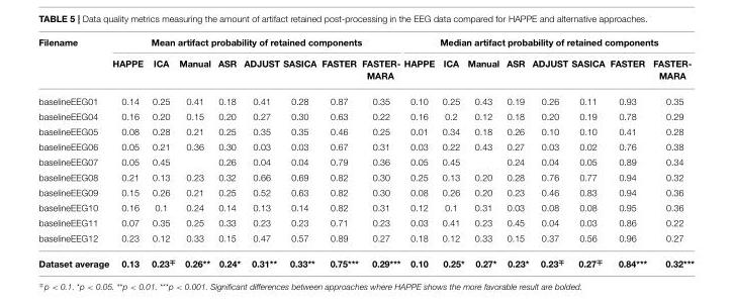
<table><thead><tr><td rowspan="2">Filename</td><td colspan="8">Mean artifact probability of retained components</td><td colspan="8">Median artifact probability of retained components</td></tr><tr><td>HAPPE</td><td>ICA</td><td>Manual</td><td>ASR</td><td>ADJUST</td><td>SASICA</td><td>FASTER</td><td>FASTER- MARA</td><td>HAPPE</td><td>ICA</td><td>Manual</td><td>ASR</td><td>ADJUST</td><td>SASICA</td><td>FASTER</td><td>FASTER- MARA</td></tr></thead><tbody><tr><td>baselineEEG01</td><td>0.14</td><td>0.25</td><td>0.41</td><td>0.18</td><td>0.41</td><td>0.28</td><td>0.87</td><td>0.35</td><td>0.10</td><td>0.25</td><td>0.43</td><td>0.19</td><td>0.26</td><td>0.11</td><td>0.93</td><td>0.35</td></tr><tr><td>baselineEEG04</td><td>0.16</td><td>0.20</td><td>0.15</td><td>0.20</td><td>0.27</td><td>0.30</td><td>0.63</td><td>0.22</td><td>0.16</td><td>0.2</td><td>0.12</td><td>0.18</td><td>0.20</td><td>0.19</td><td>0.78</td><td>0.29</td></tr><tr><td>baselineEEG05</td><td>0.08</td><td>0.28</td><td>0.21</td><td>0.25</td><td>0.35</td><td>0.35</td><td>0.46</td><td>0.25</td><td>0.01</td><td>0.34</td><td>0.18</td><td>0.26</td><td>0.10</td><td>0.10</td><td>0.41</td><td>0.28</td></tr><tr><td>baselineEEG06</td><td>0.05</td><td>0.21</td><td>0.36</td><td>0.30</td><td>0.03</td><td>0.03</td><td>0.67</td><td>0.31</td><td>0.03</td><td>0.22</td><td>0.43</td><td>0.27</td><td>0.03</td><td>0.02</td><td>0.76</td><td>0.38</td></tr><tr><td>baselineEEG07</td><td>0.05</td><td>0.45</td><td></td><td>0.26</td><td>0.04</td><td>0.04</td><td>0.79</td><td>0.36</td><td>0.05</td><td>0.45</td><td></td><td>0.24</td><td>0.04</td><td>0.05</td><td>0.89</td><td>0.34</td></tr><tr><td>baselineEEG08</td><td>0.21</td><td>0.13</td><td>0.23</td><td>0.32</td><td>0.66</td><td>0.69</td><td>0.82</td><td>0.30</td><td>0.25</td><td>0.13</td><td>0.20</td><td>0.28</td><td>0.76</td><td>0.77</td><td>0.94</td><td>0.32</td></tr><tr><td>baselineEEG09</td><td>0.15</td><td>0.26</td><td>0.21</td><td>0.25</td><td>0.52</td><td>0.63</td><td>0.82</td><td>0.30</td><td>0.08</td><td>0.26</td><td>0.20</td><td>0.23</td><td>0.46</td><td>0.83</td><td>0.94</td><td>0.36</td></tr><tr><td>baselineEEG10</td><td>0.16</td><td>0.1</td><td>0.24</td><td>0.14</td><td>0.13</td><td>0.14</td><td>0.82</td><td>0.31</td><td>0.12</td><td>0.1</td><td>0.31</td><td>0.03</td><td>0.08</td><td>0.08</td><td>0.95</td><td>0.36</td></tr><tr><td>baselineEEG11</td><td>0.07</td><td>0.35</td><td>0.25</td><td>0.33</td><td>0.23</td><td>0.23</td><td>0.71</td><td>0.23</td><td>0.03</td><td>0.41</td><td>0.23</td><td>0.45</td><td>0.04</td><td>0.03</td><td>0.86</td><td>0.22</td></tr><tr><td>baselineEEG12</td><td>0.23</td><td>0.12</td><td>0.33</td><td>0.15</td><td>0.47</td><td>0.57</td><td>0.89</td><td>0.27</td><td>0.18</td><td>0.12</td><td>0.33</td><td>0.15</td><td>0.37</td><td>0.56</td><td>0.96</td><td>0.27</td></tr><tr><td>Dataset average</td><td>0.13</td><td>0.23<sup>∓</sup></td><td>0.26**</td><td>0.24*</td><td>0.31**</td><td>0.33**</td><td>0.75***</td><td>0.29***</td><td>0.10</td><td>0.25*</td><td>0.27*</td><td>0.23*</td><td>0.23<sup>∓</sup></td><td>0.27<sup>∓</sup></td><td>0.84***</td><td>0.32***</td></tr></tbody></table>